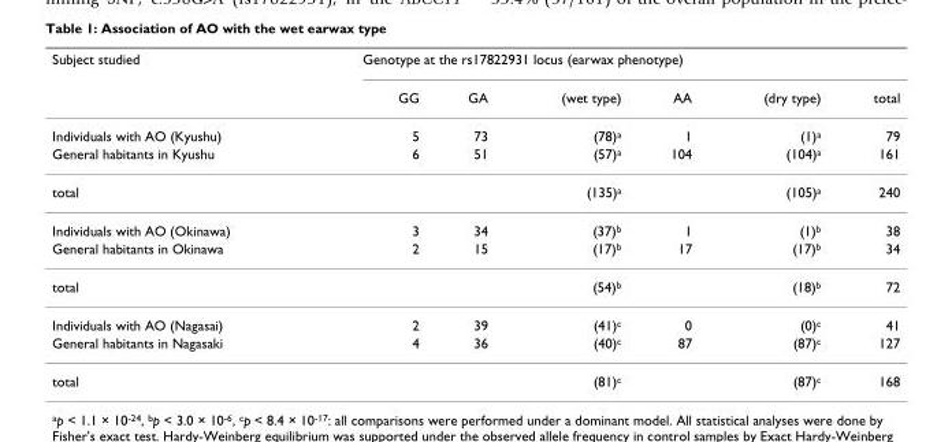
<table><thead><tr><td rowspan="2">Subject studied</td><td colspan="6">Genotype at the rs17822931 locus (earwax phenotype)</td></tr><tr><td>GG</td><td>GA</td><td>(wet type)</td><td>AA</td><td>(dry type)</td><td>total</td></tr></thead><tbody><tr><td>Individuals with AO (Kyushu)</td><td>5</td><td>73</td><td>(78)<sup>a</sup></td><td>1</td><td>(1)<sup>a</sup></td><td>79</td></tr><tr><td>General habitants in Kyushu</td><td>6</td><td>51</td><td>(57)<sup>a</sup></td><td>104</td><td>(104)<sup>a</sup></td><td>161</td></tr><tr><td>total</td><td></td><td></td><td>(135)<sup>a</sup></td><td></td><td>(105)<sup>a</sup></td><td>240</td></tr><tr><td>Individuals with AO (Okinawa)</td><td>3</td><td>34</td><td>(37)<sup>b</sup></td><td>1</td><td>(1)<sup>b</sup></td><td>38</td></tr><tr><td>General habitants in Okinawa</td><td>2</td><td>15</td><td>(17)<sup>b</sup></td><td>17</td><td>(17)<sup>b</sup></td><td>34</td></tr><tr><td>total</td><td></td><td></td><td>(54)<sup>b</sup></td><td></td><td>(18)<sup>b</sup></td><td>72</td></tr><tr><td>Individuals with AO (Nagasai)</td><td>2</td><td>39</td><td>(41)<sup>c</sup></td><td>0</td><td>(0)<sup>c</sup></td><td>41</td></tr><tr><td>General habitants in Nagasaki</td><td>4</td><td>36</td><td>(40)<sup>c</sup></td><td>87</td><td>(87)<sup>c</sup></td><td>127</td></tr><tr><td>total</td><td></td><td></td><td>(81)<sup>c</sup></td><td></td><td>(87)<sup>c</sup></td><td>168</td></tr></tbody></table>